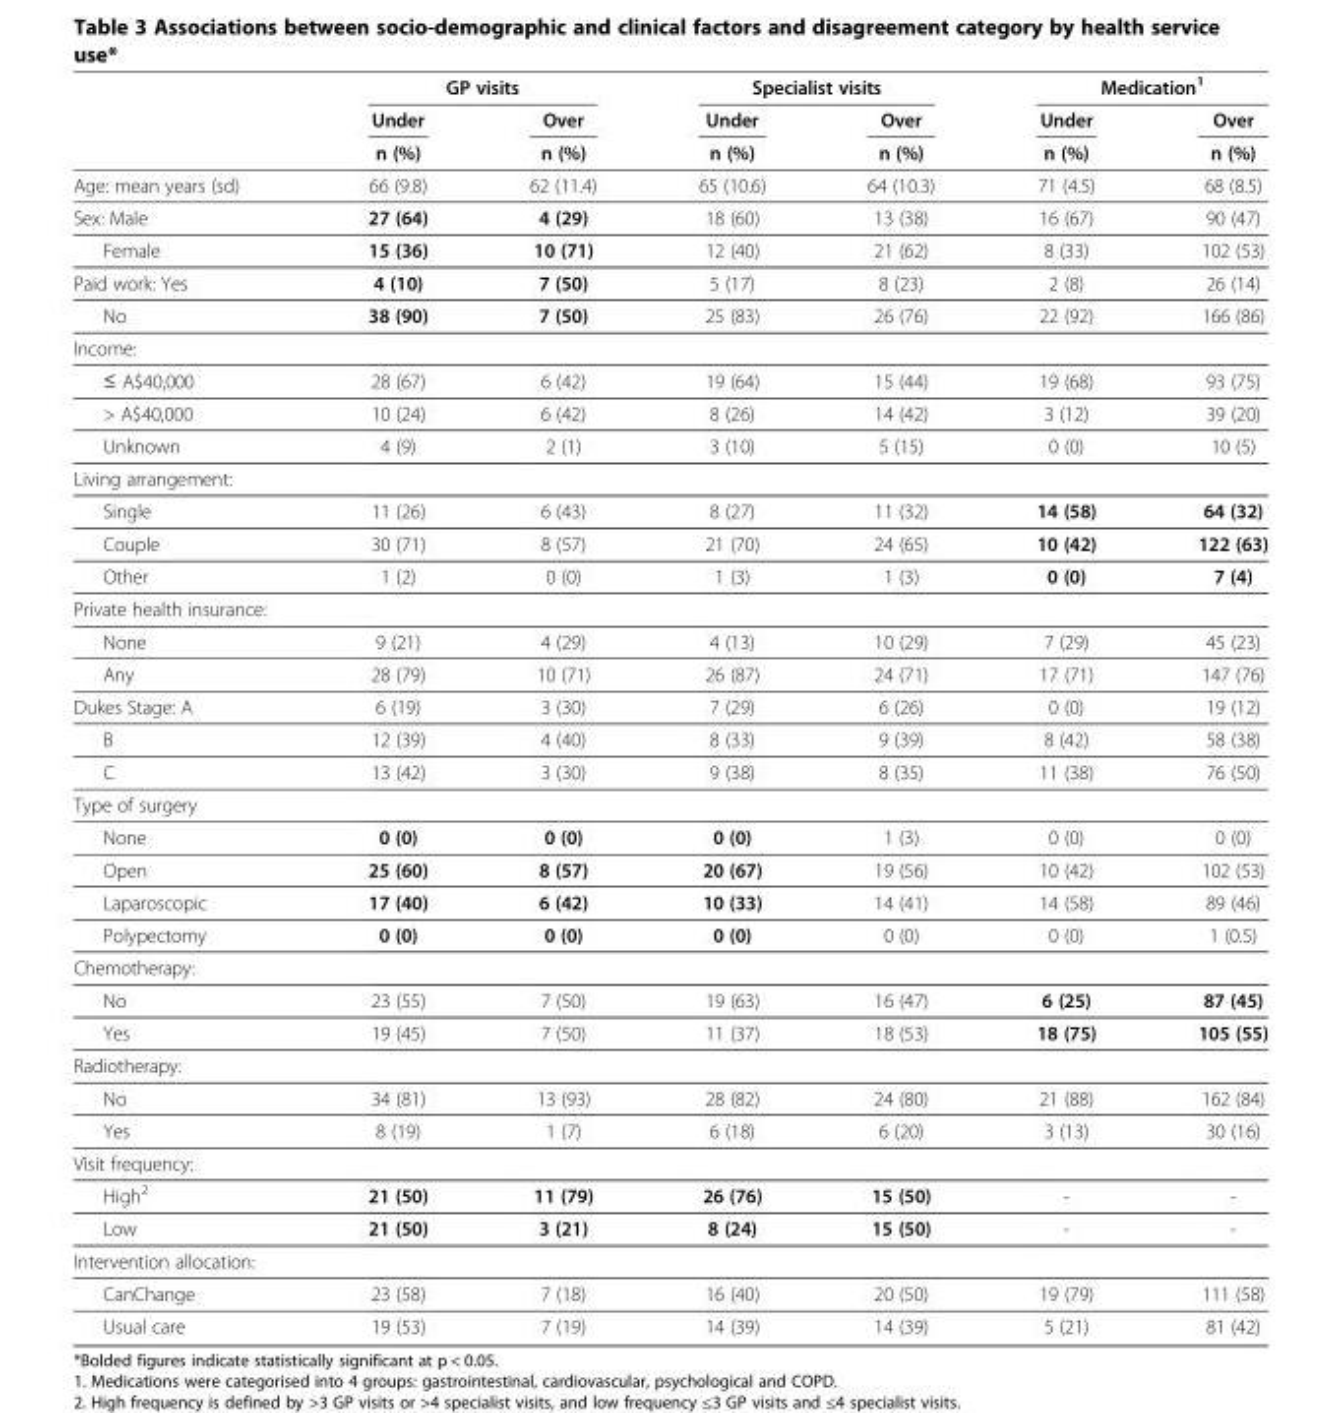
<table><thead><tr><td rowspan="3"></td><td colspan="2">GP visits</td><td colspan="2">Specialist visits</td><td colspan="2">Medication<sup>1</sup></td></tr><tr><td rowspan="2">Under n (%)</td><td rowspan="2">Over n (%)</td><td rowspan="2">Under n (%)</td><td rowspan="2">Over n (%)</td><td rowspan="2">Under n (%)</td><td rowspan="2">Over n (%)</td></tr><tr></tr></thead><tbody><tr><td>Age: mean years (sd)</td><td>66 (9.8)</td><td>62 (11.4)</td><td>65 (10.6)</td><td>64 (10.3)</td><td>71 (4.5)</td><td>68 (8.5)</td></tr><tr><td>Sex: Male</td><td>27 (64)</td><td>4 (29)</td><td>18 (60)</td><td>13 (38)</td><td>16 (67)</td><td>90 (47)</td></tr><tr><td>Female</td><td>15 (36)</td><td>10 (71)</td><td>12 (40)</td><td>21 (62)</td><td>8 (33)</td><td>102 (53)</td></tr><tr><td>Paid work: Yes</td><td>4 (10)</td><td>7 (50)</td><td>5 (17)</td><td>8 (23)</td><td>2 (8)</td><td>26 (14)</td></tr><tr><td>No</td><td>38 (90)</td><td>7 (50)</td><td>25 (83)</td><td>26 (76)</td><td>22 (92)</td><td>166 (86)</td></tr><tr><td colspan="7">Income:</td></tr><tr><td>≤ A$40,000</td><td>28 (67)</td><td>6 (42)</td><td>19 (64)</td><td>15 (44)</td><td>19 (68)</td><td>93 (75)</td></tr><tr><td>&gt; A$40,000</td><td>10 (24)</td><td>6 (42)</td><td>8 (26)</td><td>14 (42)</td><td>3 (12)</td><td>39 (20)</td></tr><tr><td>Unknown</td><td>4 (9)</td><td>2 (1)</td><td>3 (10)</td><td>5 (15)</td><td>0 (0)</td><td>10 (5)</td></tr><tr><td colspan="7">Living arrangement:</td></tr><tr><td>Single</td><td>11 (26)</td><td>6 (43)</td><td>8 (27)</td><td>11 (32)</td><td>14 (58)</td><td>64 (32)</td></tr><tr><td>Couple</td><td>30 (71)</td><td>8 (57)</td><td>21 (70)</td><td>24 (65)</td><td>10 (42)</td><td>122 (63)</td></tr><tr><td>Other</td><td>1 (2)</td><td>0 (0)</td><td>1 (3)</td><td>1 (3)</td><td>0 (0)</td><td>7 (4)</td></tr><tr><td colspan="7">Private health insurance:</td></tr><tr><td>None</td><td>9 (21)</td><td>4 (29)</td><td>4 (13)</td><td>10 (29)</td><td>7 (29)</td><td>45 (23)</td></tr><tr><td>Any</td><td>28 (79)</td><td>10 (71)</td><td>26 (87)</td><td>24 (71)</td><td>17 (71)</td><td>147 (76)</td></tr><tr><td>Dukes Stage: A</td><td>6 (19)</td><td>3 (30)</td><td>7 (29)</td><td>6 (26)</td><td>0 (0)</td><td>19 (12)</td></tr><tr><td>B</td><td>12 (39)</td><td>4 (40)</td><td>8 (33)</td><td>9 (39)</td><td>8 (42)</td><td>58 (38)</td></tr><tr><td>C</td><td>13 (42)</td><td>3 (30)</td><td>9 (38)</td><td>8 (35)</td><td>11 (38)</td><td>76 (50)</td></tr><tr><td colspan="7">Type of surgery</td></tr><tr><td>None</td><td>0 (0)</td><td>0 (0)</td><td>0 (0)</td><td>1 (3)</td><td>0 (0)</td><td>0 (0)</td></tr><tr><td>Open</td><td>25 (60)</td><td>8 (57)</td><td>20 (67)</td><td>19 (56)</td><td>10 (42)</td><td>102 (53)</td></tr><tr><td>Laparoscopic</td><td>17 (40)</td><td>6 (42)</td><td>10 (33)</td><td>14 (41)</td><td>14 (58)</td><td>89 (46)</td></tr><tr><td>Polypectomy</td><td>0 (0)</td><td>0 (0)</td><td>0 (0)</td><td>0 (0)</td><td>0 (0)</td><td>1 (0.5)</td></tr><tr><td colspan="7">Chemotherapy:</td></tr><tr><td>No</td><td>23 (55)</td><td>7 (50)</td><td>19 (63)</td><td>16 (47)</td><td>6 (25)</td><td>87 (45)</td></tr><tr><td>Yes</td><td>19 (45)</td><td>7 (50)</td><td>11 (37)</td><td>18 (53)</td><td>18 (75)</td><td>105 (55)</td></tr><tr><td colspan="7">Radiotherapy:</td></tr><tr><td>No</td><td>34 (81)</td><td>13 (93)</td><td>28 (82)</td><td>24 (80)</td><td>21 (88)</td><td>162 (84)</td></tr><tr><td>Yes</td><td>8 (19)</td><td>1 (7)</td><td>6 (18)</td><td>6 (20)</td><td>3 (13)</td><td>30 (16)</td></tr><tr><td colspan="7">Visit frequency:</td></tr><tr><td>High<sup>2</sup></td><td>21 (50)</td><td>11 (79)</td><td>26 (76)</td><td>15 (50)</td><td>-</td><td>-</td></tr><tr><td>Low</td><td>21 (50)</td><td>3 (21)</td><td>8 (24)</td><td>15 (50)</td><td>-</td><td>-</td></tr><tr><td colspan="7">Intervention allocation:</td></tr><tr><td>CanChange</td><td>23 (58)</td><td>7 (18)</td><td>16 (40)</td><td>20 (50)</td><td>19 (79)</td><td>111 (58)</td></tr><tr><td>Usual care</td><td>19 (53)</td><td>7 (19)</td><td>14 (39)</td><td>14 (39)</td><td>5 (21)</td><td>81 (42)</td></tr></tbody></table>